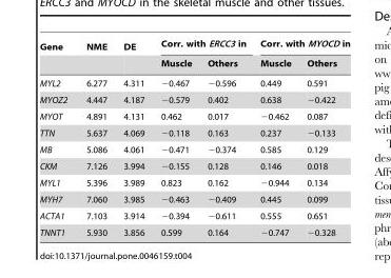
<table><thead><tr><td rowspan="2">Gene</td><td rowspan="2">NME</td><td rowspan="2">DE</td><td colspan="2">Corr. with ERCC3 in</td><td colspan="2">Corr. with MYOCD in</td></tr><tr><td>Muscle</td><td>Others</td><td>Muscle</td><td>Others</td></tr></thead><tbody><tr><td>MYL2</td><td>6.277</td><td>4.311</td><td>−0.467</td><td>−0.596</td><td>0.449</td><td>0.591</td></tr><tr><td>MYOZ2</td><td>4.447</td><td>4.187</td><td>−0.579</td><td>0.402</td><td>0.638</td><td>−0.422</td></tr><tr><td>MYOT</td><td>4.891</td><td>4.131</td><td>0.462</td><td>0.017</td><td>−0.462</td><td>0.087</td></tr><tr><td>TTN</td><td>5.637</td><td>4.069</td><td>−0.118</td><td>0.163</td><td>0.237</td><td>−0.133</td></tr><tr><td>MB</td><td>5.086</td><td>4.061</td><td>−0.471</td><td>−0.374</td><td>0.585</td><td>0.129</td></tr><tr><td>CKM</td><td>7.126</td><td>3.994</td><td>−0.155</td><td>0.128</td><td>0.146</td><td>0.018</td></tr><tr><td>MYL1</td><td>5.396</td><td>3.989</td><td>0.823</td><td>0.162</td><td>−0.944</td><td>0.134</td></tr><tr><td>MYH7</td><td>7.060</td><td>3.985</td><td>−0.463</td><td>−0.409</td><td>0.445</td><td>0.099</td></tr><tr><td>ACTA1</td><td>7.103</td><td>3.914</td><td>−0.394</td><td>−0.611</td><td>0.555</td><td>0.651</td></tr><tr><td>TNNT1</td><td>5.930</td><td>3.856</td><td>0.599</td><td>0.164</td><td>−0.747</td><td>−0.328</td></tr></tbody></table>